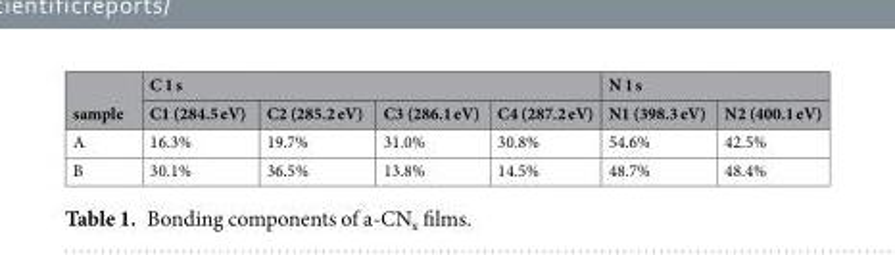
<table><thead><tr><td rowspan="2">sample</td><td colspan="4">C 1 s</td><td colspan="2">N 1 s</td></tr><tr><td>C1 (284.5 eV)</td><td>C2 (285.2 eV)</td><td>C3 (286.1 eV)</td><td>C4 (287.2 eV)</td><td>N1 (398.3 eV)</td><td>N2 (400.1 eV)</td></tr></thead><tbody><tr><td>A</td><td>16.3%</td><td>19.7%</td><td>31.0%</td><td>30.8%</td><td>54.6%</td><td>42.5%</td></tr><tr><td>B</td><td>30.1%</td><td>36.5%</td><td>13.8%</td><td>14.5%</td><td>48.7%</td><td>48.4%</td></tr></tbody></table>